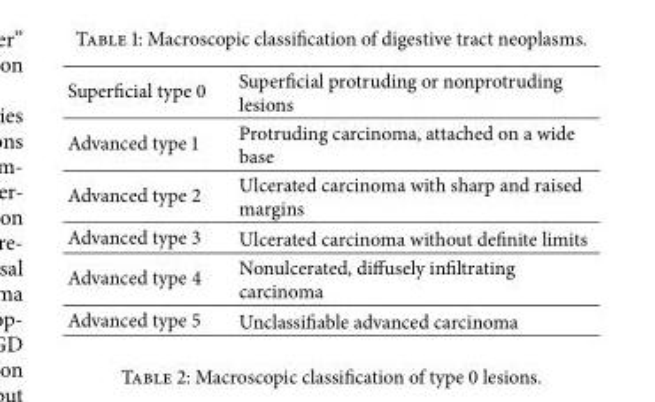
<table><tbody><tr><td>Superficial type 0</td><td>Superficial protruding or nonprotruding lesions</td></tr><tr><td>Advanced type 1</td><td>Protruding carcinoma, attached on a wide base</td></tr><tr><td>Advanced type 2</td><td>Ulcerated carcinoma with sharp and raised margins</td></tr><tr><td>Advanced type 3</td><td>Ulcerated carcinoma without definite limits</td></tr><tr><td>Advanced type 4</td><td>Nonulcerated, diffusely infiltrating carcinoma</td></tr><tr><td>Advanced type 5</td><td>Unclassifiable advanced carcinoma</td></tr></tbody></table>